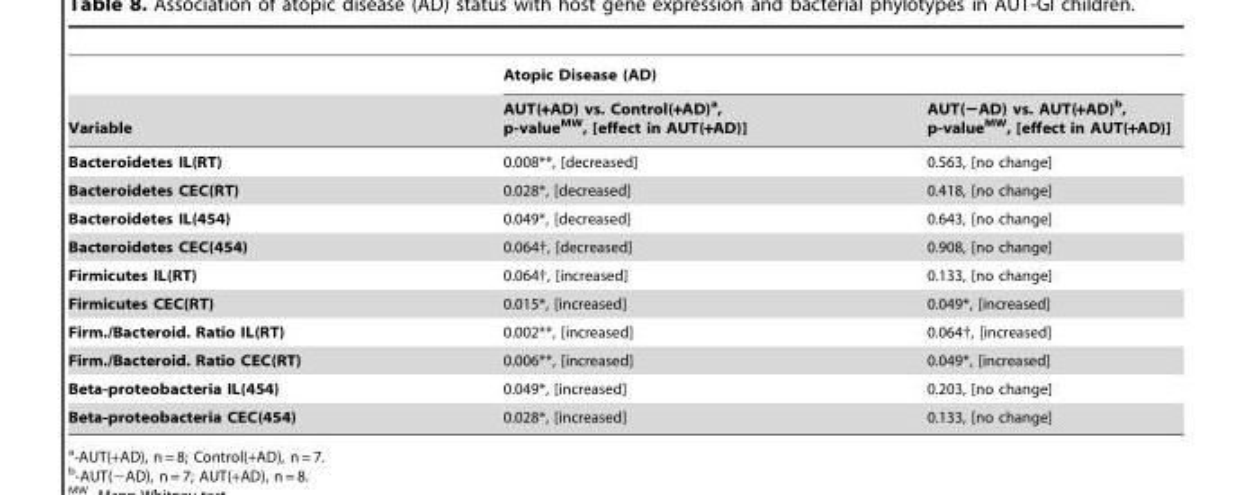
<table><thead><tr><td rowspan="2">Variable</td><td colspan="2">Atopic Disease (AD)</td></tr><tr><td>AUT(+AD) vs. Control(+AD)<sup>a</sup>, p-value<sup>MW</sup>, [effect in AUT(+AD)]</td><td>AUT(−AD) vs. AUT(+AD)<sup>b</sup>, p-value<sup>MW</sup>, [effect in AUT(+AD)]</td></tr></thead><tbody><tr><td>Bacteroidetes IL(RT)</td><td>0.008**, [decreased]</td><td>0.563, [no change]</td></tr><tr><td>Bacteroidetes CEC(RT)</td><td>0.028*, [decreased]</td><td>0.418, [no change]</td></tr><tr><td>Bacteroidetes IL(454)</td><td>0.049*, [decreased]</td><td>0.643, [no change]</td></tr><tr><td>Bacteroidetes CEC(454)</td><td>0.064†, [decreased]</td><td>0.908, [no change]</td></tr><tr><td>Firmicutes IL(RT)</td><td>0.064†, [increased]</td><td>0.133, [no change]</td></tr><tr><td>Firmicutes CEC(RT)</td><td>0.015*, [increased]</td><td>0.049*, [increased]</td></tr><tr><td>Firm./Bacteroid. Ratio IL(RT)</td><td>0.002**, [increased]</td><td>0.064†, [increased]</td></tr><tr><td>Firm./Bacteroid. Ratio CEC(RT)</td><td>0.006**, [increased]</td><td>0.049*, [increased]</td></tr><tr><td>Beta-proteobacteria IL(454)</td><td>0.049*, [increased]</td><td>0.203, [no change]</td></tr><tr><td>Beta-proteobacteria CEC(454)</td><td>0.028*, [increased]</td><td>0.133, [no change]</td></tr></tbody></table>